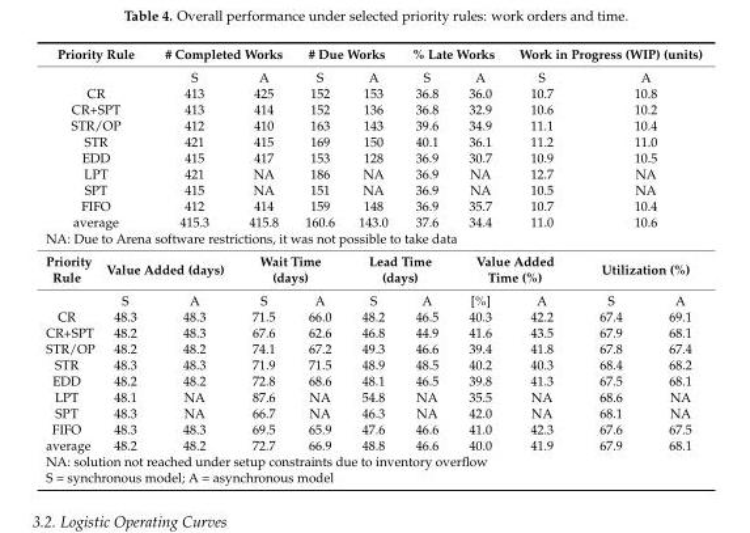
<table><tbody><tr><td rowspan="2" colspan="2">Priority Rule</td><td colspan="2"># Completed Works</td><td colspan="2"># Due Works</td><td colspan="2">% Late Works</td><td colspan="3">Work in Progress (WIP) (units)</td></tr><tr><td>S</td><td>A</td><td>S</td><td>A</td><td>S</td><td>A</td><td>S</td><td colspan="2">A</td></tr><tr><td colspan="2">CR</td><td>413</td><td>425</td><td>152</td><td>153</td><td>36.8</td><td>36.0</td><td>10.7</td><td colspan="2">10.8</td></tr><tr><td colspan="2">CR+SPT</td><td>413</td><td>414</td><td>152</td><td>136</td><td>36.8</td><td>32.9</td><td>10.6</td><td colspan="2">10.2</td></tr><tr><td colspan="2">STR/OP</td><td>412</td><td>410</td><td>163</td><td>143</td><td>39.6</td><td>34.9</td><td>11.1</td><td colspan="2">10.4</td></tr><tr><td colspan="2">STR</td><td>421</td><td>415</td><td>169</td><td>150</td><td>40.1</td><td>36.1</td><td>11.2</td><td colspan="2">11.0</td></tr><tr><td colspan="2">EDD</td><td>415</td><td>417</td><td>153</td><td>128</td><td>36.9</td><td>30.7</td><td>10.9</td><td colspan="2">10.5</td></tr><tr><td colspan="2">LPT</td><td>421</td><td>NA</td><td>186</td><td>NA</td><td>36.9</td><td>NA</td><td>12.7</td><td colspan="2">NA</td></tr><tr><td colspan="2">SPT</td><td>415</td><td>NA</td><td>151</td><td>NA</td><td>36.9</td><td>NA</td><td>10.5</td><td colspan="2">NA</td></tr><tr><td colspan="2">FIFO</td><td>412</td><td>414</td><td>159</td><td>148</td><td>36.9</td><td>35.7</td><td>10.7</td><td colspan="2">10.4</td></tr><tr><td colspan="2">average</td><td>415.3</td><td>415.8</td><td>160.6</td><td>143.0</td><td>37.6</td><td>34.4</td><td>11.0</td><td colspan="2">10.6</td></tr><tr><td colspan="11">NA: Due to Arena software restrictions, it was not possible to take data</td></tr><tr><td rowspan="2">Priority Rule</td><td colspan="2">Value Added (days)</td><td colspan="2">Wait Time (days)</td><td colspan="2">Lead Time (days)</td><td colspan="2">Value Added Time (%)</td><td colspan="2">Utilization (%)</td></tr><tr><td>S</td><td>A</td><td>S</td><td>A</td><td>S</td><td>A</td><td>[%]</td><td>A</td><td>S</td><td>A</td></tr><tr><td>CR</td><td>48.3</td><td>48.3</td><td>71.5</td><td>66.0</td><td>48.2</td><td>46.5</td><td>40.3</td><td>42.2</td><td>67.4</td><td>69.1</td></tr><tr><td>CR+SPT</td><td>48.2</td><td>48.3</td><td>67.6</td><td>62.6</td><td>46.8</td><td>44.9</td><td>41.6</td><td>43.5</td><td>67.9</td><td>68.1</td></tr><tr><td>STR/OP</td><td>48.2</td><td>48.2</td><td>74.1</td><td>67.2</td><td>49.3</td><td>46.6</td><td>39.4</td><td>41.8</td><td>67.8</td><td>67.4</td></tr><tr><td>STR</td><td>48.3</td><td>48.3</td><td>71.9</td><td>71.5</td><td>48.9</td><td>48.5</td><td>40.2</td><td>40.3</td><td>68.4</td><td>68.2</td></tr><tr><td>EDD</td><td>48.2</td><td>48.2</td><td>72.8</td><td>68.6</td><td>48.1</td><td>46.5</td><td>39.8</td><td>41.3</td><td>67.5</td><td>68.1</td></tr><tr><td>LPT</td><td>48.1</td><td>NA</td><td>87.6</td><td>NA</td><td>54.8</td><td>NA</td><td>35.5</td><td>NA</td><td>68.6</td><td>NA</td></tr><tr><td>SPT</td><td>48.3</td><td>NA</td><td>66.7</td><td>NA</td><td>46.3</td><td>NA</td><td>42.0</td><td>NA</td><td>68.1</td><td>NA</td></tr><tr><td>FIFO</td><td>48.3</td><td>48.3</td><td>69.5</td><td>65.9</td><td>47.6</td><td>46.6</td><td>41.0</td><td>42.3</td><td>67.6</td><td>67.5</td></tr><tr><td>average</td><td>48.2</td><td>48.2</td><td>72.7</td><td>66.9</td><td>48.8</td><td>46.6</td><td>40.0</td><td>41.9</td><td>67.9</td><td>68.1</td></tr><tr><td colspan="11">NA: solution not reached under setup constraints due to inventory overflow</td></tr><tr><td colspan="11">S = synchronous model; A = asynchronous model</td></tr></tbody></table>